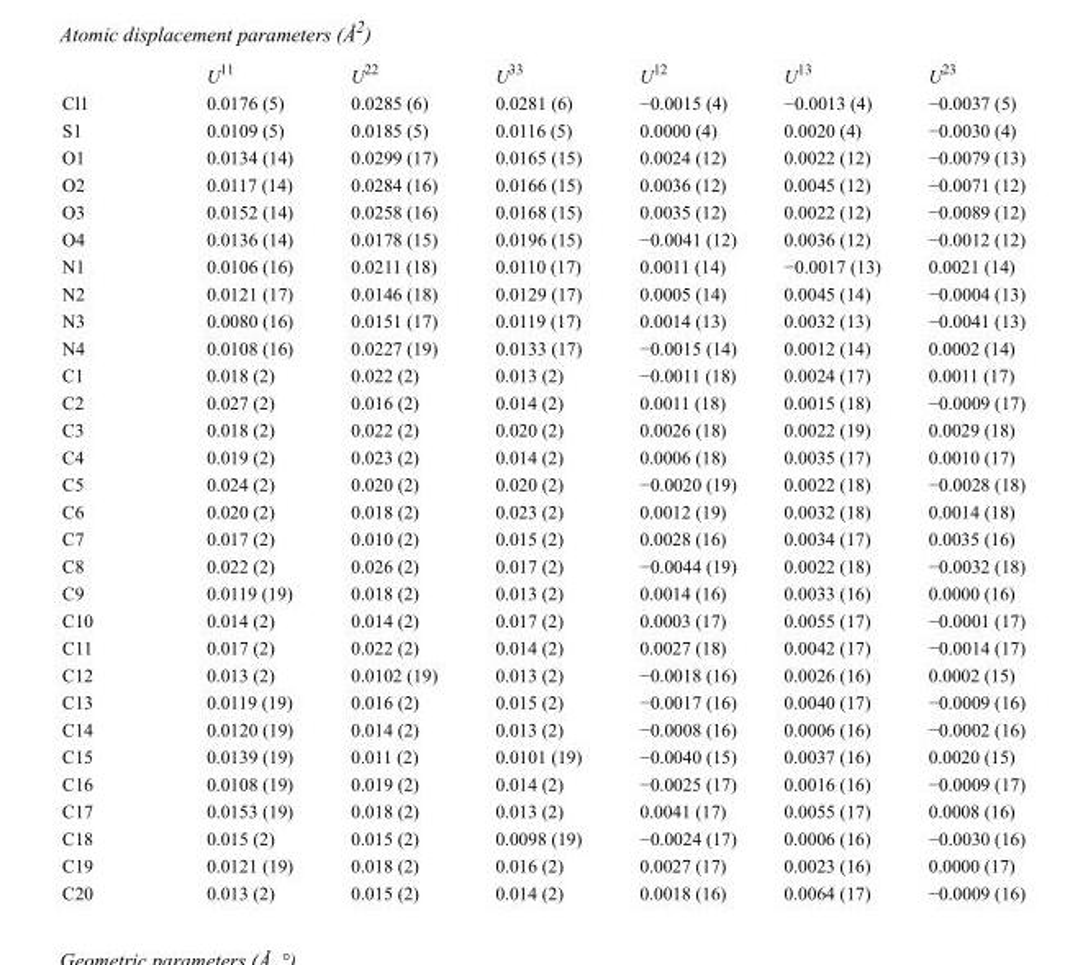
<table><thead><tr><td></td><td>U<sup>11</sup></td><td>U<sup>22</sup></td><td>U<sup>33</sup></td><td>U<sup>12</sup></td><td>U<sup>13</sup></td><td>U<sup>23</sup></td></tr></thead><tbody><tr><td>Cl1</td><td>0.0176 (5)</td><td>0.0285 (6)</td><td>0.0281 (6)</td><td>−0.0015 (4)</td><td>−0.0013 (4)</td><td>−0.0037 (5)</td></tr><tr><td>S1</td><td>0.0109 (5)</td><td>0.0185 (5)</td><td>0.0116 (5)</td><td>0.0000 (4)</td><td>0.0020 (4)</td><td>−0.0030 (4)</td></tr><tr><td>O1</td><td>0.0134 (14)</td><td>0.0299 (17)</td><td>0.0165 (15)</td><td>0.0024 (12)</td><td>0.0022 (12)</td><td>−0.0079 (13)</td></tr><tr><td>O2</td><td>0.0117 (14)</td><td>0.0284 (16)</td><td>0.0166 (15)</td><td>0.0036 (12)</td><td>0.0045 (12)</td><td>−0.0071 (12)</td></tr><tr><td>O3</td><td>0.0152 (14)</td><td>0.0258 (16)</td><td>0.0168 (15)</td><td>0.0035 (12)</td><td>0.0022 (12)</td><td>−0.0089 (12)</td></tr><tr><td>O4</td><td>0.0136 (14)</td><td>0.0178 (15)</td><td>0.0196 (15)</td><td>−0.0041 (12)</td><td>0.0036 (12)</td><td>−0.0012 (12)</td></tr><tr><td>N1</td><td>0.0106 (16)</td><td>0.0211 (18)</td><td>0.0110 (17)</td><td>0.0011 (14)</td><td>−0.0017 (13)</td><td>0.0021 (14)</td></tr><tr><td>N2</td><td>0.0121 (17)</td><td>0.0146 (18)</td><td>0.0129 (17)</td><td>0.0005 (14)</td><td>0.0045 (14)</td><td>−0.0004 (13)</td></tr><tr><td>N3</td><td>0.0080 (16)</td><td>0.0151 (17)</td><td>0.0119 (17)</td><td>0.0014 (13)</td><td>0.0032 (13)</td><td>−0.0041 (13)</td></tr><tr><td>N4</td><td>0.0108 (16)</td><td>0.0227 (19)</td><td>0.0133 (17)</td><td>−0.0015 (14)</td><td>0.0012 (14)</td><td>0.0002 (14)</td></tr><tr><td>C1</td><td>0.018 (2)</td><td>0.022 (2)</td><td>0.013 (2)</td><td>−0.0011 (18)</td><td>0.0024 (17)</td><td>0.0011 (17)</td></tr><tr><td>C2</td><td>0.027 (2)</td><td>0.016 (2)</td><td>0.014 (2)</td><td>0.0011 (18)</td><td>0.0015 (18)</td><td>−0.0009 (17)</td></tr><tr><td>C3</td><td>0.018 (2)</td><td>0.022 (2)</td><td>0.020 (2)</td><td>0.0026 (18)</td><td>0.0022 (19)</td><td>0.0029 (18)</td></tr><tr><td>C4</td><td>0.019 (2)</td><td>0.023 (2)</td><td>0.014 (2)</td><td>0.0006 (18)</td><td>0.0035 (17)</td><td>0.0010 (17)</td></tr><tr><td>C5</td><td>0.024 (2)</td><td>0.020 (2)</td><td>0.020 (2)</td><td>−0.0020 (19)</td><td>0.0022 (18)</td><td>−0.0028 (18)</td></tr><tr><td>C6</td><td>0.020 (2)</td><td>0.018 (2)</td><td>0.023 (2)</td><td>0.0012 (19)</td><td>0.0032 (18)</td><td>0.0014 (18)</td></tr><tr><td>C7</td><td>0.017 (2)</td><td>0.010 (2)</td><td>0.015 (2)</td><td>0.0028 (16)</td><td>0.0034 (17)</td><td>0.0035 (16)</td></tr><tr><td>C8</td><td>0.022 (2)</td><td>0.026 (2)</td><td>0.017 (2)</td><td>−0.0044 (19)</td><td>0.0022 (18)</td><td>−0.0032 (18)</td></tr><tr><td>C9</td><td>0.0119 (19)</td><td>0.018 (2)</td><td>0.013 (2)</td><td>0.0014 (16)</td><td>0.0033 (16)</td><td>0.0000 (16)</td></tr><tr><td>C10</td><td>0.014 (2)</td><td>0.014 (2)</td><td>0.017 (2)</td><td>0.0003 (17)</td><td>0.0055 (17)</td><td>−0.0001 (17)</td></tr><tr><td>C11</td><td>0.017 (2)</td><td>0.022 (2)</td><td>0.014 (2)</td><td>0.0027 (18)</td><td>0.0042 (17)</td><td>−0.0014 (17)</td></tr><tr><td>C12</td><td>0.013 (2)</td><td>0.0102 (19)</td><td>0.013 (2)</td><td>−0.0018 (16)</td><td>0.0026 (16)</td><td>0.0002 (15)</td></tr><tr><td>C13</td><td>0.0119 (19)</td><td>0.016 (2)</td><td>0.015 (2)</td><td>−0.0017 (16)</td><td>0.0040 (17)</td><td>−0.0009 (16)</td></tr><tr><td>C14</td><td>0.0120 (19)</td><td>0.014 (2)</td><td>0.013 (2)</td><td>−0.0008 (16)</td><td>0.0006 (16)</td><td>−0.0002 (16)</td></tr><tr><td>C15</td><td>0.0139 (19)</td><td>0.011 (2)</td><td>0.0101 (19)</td><td>−0.0040 (15)</td><td>0.0037 (16)</td><td>0.0020 (15)</td></tr><tr><td>C16</td><td>0.0108 (19)</td><td>0.019 (2)</td><td>0.014 (2)</td><td>−0.0025 (17)</td><td>0.0016 (16)</td><td>−0.0009 (17)</td></tr><tr><td>C17</td><td>0.0153 (19)</td><td>0.018 (2)</td><td>0.013 (2)</td><td>0.0041 (17)</td><td>0.0055 (17)</td><td>0.0008 (16)</td></tr><tr><td>C18</td><td>0.015 (2)</td><td>0.015 (2)</td><td>0.0098 (19)</td><td>−0.0024 (17)</td><td>0.0006 (16)</td><td>−0.0030 (16)</td></tr><tr><td>C19</td><td>0.0121 (19)</td><td>0.018 (2)</td><td>0.016 (2)</td><td>0.0027 (17)</td><td>0.0023 (16)</td><td>0.0000 (17)</td></tr><tr><td>C20</td><td>0.013 (2)</td><td>0.015 (2)</td><td>0.014 (2)</td><td>0.0018 (16)</td><td>0.0064 (17)</td><td>−0.0009 (16)</td></tr></tbody></table>